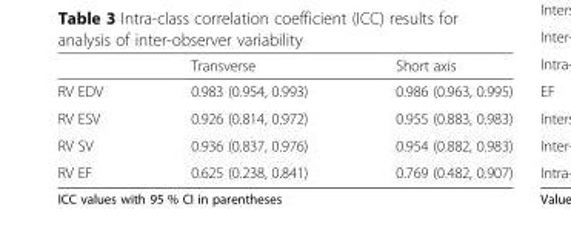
<table><thead><tr><td></td><td>Transverse</td><td>Short axis</td></tr></thead><tbody><tr><td>RV EDV</td><td>0.983 (0.954, 0.993)</td><td>0.986 (0.963, 0.995)</td></tr><tr><td>RV ESV</td><td>0.926 (0.814, 0.972)</td><td>0.955 (0.883, 0.983)</td></tr><tr><td>RV SV</td><td>0.936 (0.837, 0.976)</td><td>0.954 (0.882, 0.983)</td></tr><tr><td>RV EF</td><td>0.625 (0.238, 0.841)</td><td>0.769 (0.482, 0.907)</td></tr></tbody></table>